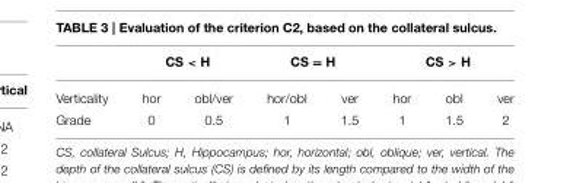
<table><thead><tr><td rowspan="2">Verticality</td><td colspan="2">CS &lt; H</td><td colspan="2">CS = H</td><td colspan="3">CS &gt; H</td></tr><tr><td>hor</td><td>obl/ver</td><td>hor/obl</td><td>ver</td><td>hor</td><td>obl</td><td>ver</td></tr></thead><tbody><tr><td>Grade</td><td>0</td><td>0.5</td><td>1</td><td>1.5</td><td>1</td><td>1.5</td><td>2</td></tr></tbody></table>